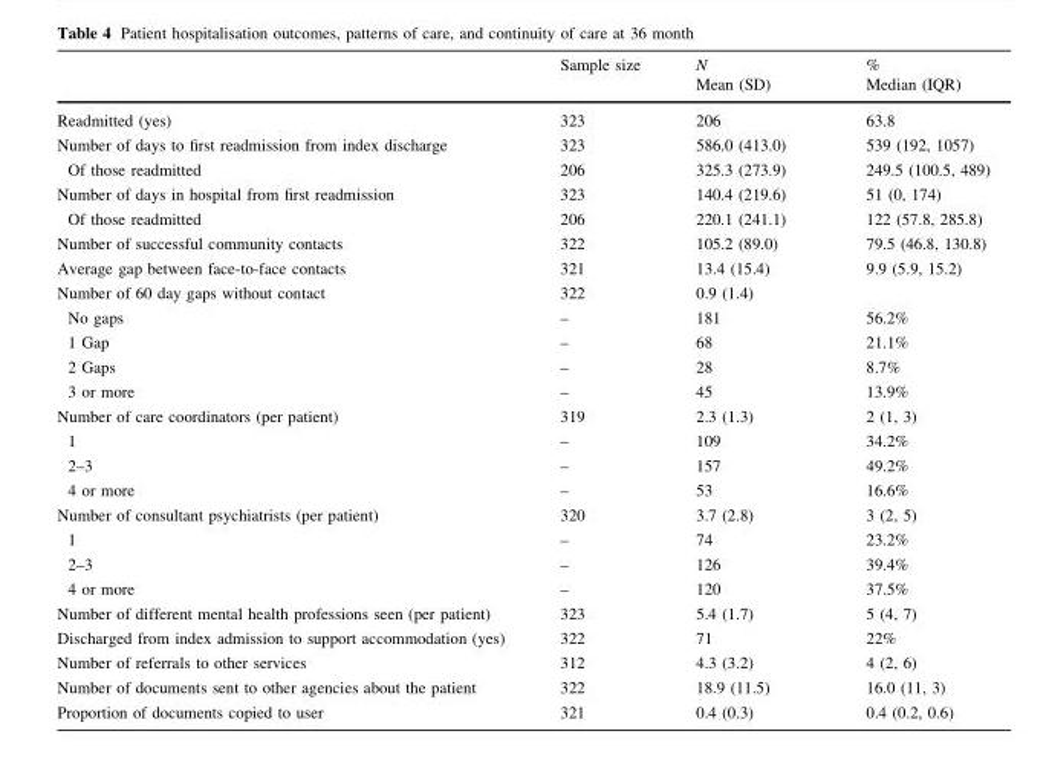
<table><thead><tr><td></td><td>Sample size</td><td>N Mean (SD)</td><td>% Median (IQR)</td></tr></thead><tbody><tr><td>Readmitted (yes)</td><td>323</td><td>206</td><td>63.8</td></tr><tr><td>Number of days to first readmission from index discharge</td><td>323</td><td>586.0 (413.0)</td><td>539 (192, 1057)</td></tr><tr><td>Of those readmitted</td><td>206</td><td>325.3 (273.9)</td><td>249.5 (100.5, 489)</td></tr><tr><td>Number of days in hospital from first readmission</td><td>323</td><td>140.4 (219.6)</td><td>51 (0, 174)</td></tr><tr><td>Of those readmitted</td><td>206</td><td>220.1 (241.1)</td><td>122 (57.8, 285.8)</td></tr><tr><td>Number of successful community contacts</td><td>322</td><td>105.2 (89.0)</td><td>79.5 (46.8, 130.8)</td></tr><tr><td>Average gap between face-to-face contacts</td><td>321</td><td>13.4 (15.4)</td><td>9.9 (5.9, 15.2)</td></tr><tr><td>Number of 60 day gaps without contact</td><td>322</td><td>0.9 (1.4)</td><td></td></tr><tr><td>No gaps</td><td>–</td><td>181</td><td>56.2%</td></tr><tr><td>1 Gap</td><td>–</td><td>68</td><td>21.1%</td></tr><tr><td>2 Gaps</td><td>–</td><td>28</td><td>8.7%</td></tr><tr><td>3 or more</td><td>–</td><td>45</td><td>13.9%</td></tr><tr><td>Number of care coordinators (per patient)</td><td>319</td><td>2.3 (1.3)</td><td>2 (1, 3)</td></tr><tr><td>1</td><td>–</td><td>109</td><td>34.2%</td></tr><tr><td>2–3</td><td>–</td><td>157</td><td>49.2%</td></tr><tr><td>4 or more</td><td>–</td><td>53</td><td>16.6%</td></tr><tr><td>Number of consultant psychiatrists (per patient)</td><td>320</td><td>3.7 (2.8)</td><td>3 (2, 5)</td></tr><tr><td>1</td><td>–</td><td>74</td><td>23.2%</td></tr><tr><td>2–3</td><td>–</td><td>126</td><td>39.4%</td></tr><tr><td>4 or more</td><td>–</td><td>120</td><td>37.5%</td></tr><tr><td>Number of different mental health professions seen (per patient)</td><td>323</td><td>5.4 (1.7)</td><td>5 (4, 7)</td></tr><tr><td>Discharged from index admission to support accommodation (yes)</td><td>322</td><td>71</td><td>22%</td></tr><tr><td>Number of referrals to other services</td><td>312</td><td>4.3 (3.2)</td><td>4 (2, 6)</td></tr><tr><td>Number of documents sent to other agencies about the patient</td><td>322</td><td>18.9 (11.5)</td><td>16.0 (11, 3)</td></tr><tr><td>Proportion of documents copied to user</td><td>321</td><td>0.4 (0.3)</td><td>0.4 (0.2, 0.6)</td></tr></tbody></table>